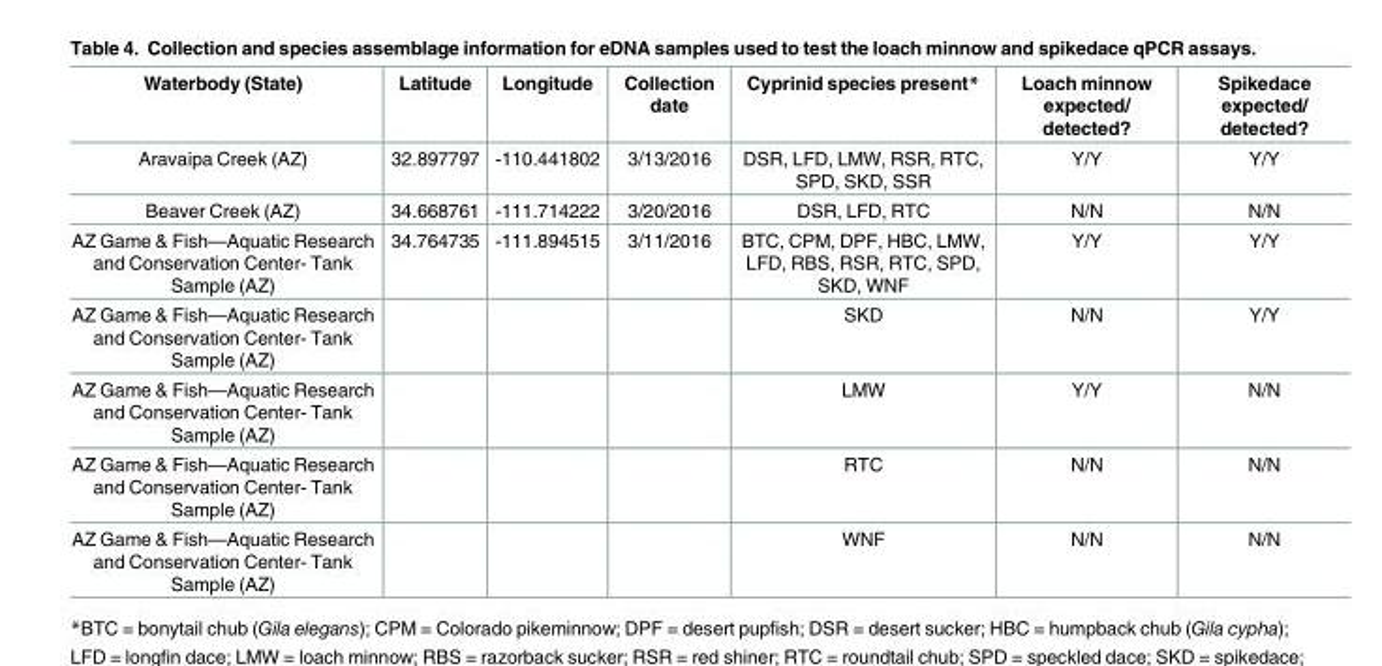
<table><thead><tr><td>Waterbody (State)</td><td>Latitude</td><td>Longitude</td><td>Collection date</td><td>Cyprinid species present*</td><td>Loach minnow expected/ detected?</td><td>Spikedace expected/ detected?</td></tr></thead><tbody><tr><td>Aravaipa Creek (AZ)</td><td>32.897797</td><td>-110.441802</td><td>3/13/2016</td><td>DSR, LFD, LMW, RSR, RTC, SPD, SKD, SSR</td><td>Y/Y</td><td>Y/Y</td></tr><tr><td>Beaver Creek (AZ)</td><td>34.668761</td><td>-111.714222</td><td>3/20/2016</td><td>DSR, LFD, RTC</td><td>N/N</td><td>N/N</td></tr><tr><td>AZ Game &amp; Fish—Aquatic Research and Conservation Center- Tank Sample (AZ)</td><td>34.764735</td><td>-111.894515</td><td>3/11/2016</td><td>BTC, CPM, DPF, HBC, LMW, LFD, RBS, RSR, RTC, SPD, SKD, WNF</td><td>Y/Y</td><td>Y/Y</td></tr><tr><td>AZ Game &amp; Fish—Aquatic Research and Conservation Center- Tank Sample (AZ)</td><td></td><td></td><td></td><td>SKD</td><td>N/N</td><td>Y/Y</td></tr><tr><td>AZ Game &amp; Fish—Aquatic Research and Conservation Center- Tank Sample (AZ)</td><td></td><td></td><td></td><td>LMW</td><td>Y/Y</td><td>N/N</td></tr><tr><td>AZ Game &amp; Fish—Aquatic Research and Conservation Center- Tank Sample (AZ)</td><td></td><td></td><td></td><td>RTC</td><td>N/N</td><td>N/N</td></tr><tr><td>AZ Game &amp; Fish—Aquatic Research and Conservation Center- Tank Sample (AZ)</td><td></td><td></td><td></td><td>WNF</td><td>N/N</td><td>N/N</td></tr></tbody></table>